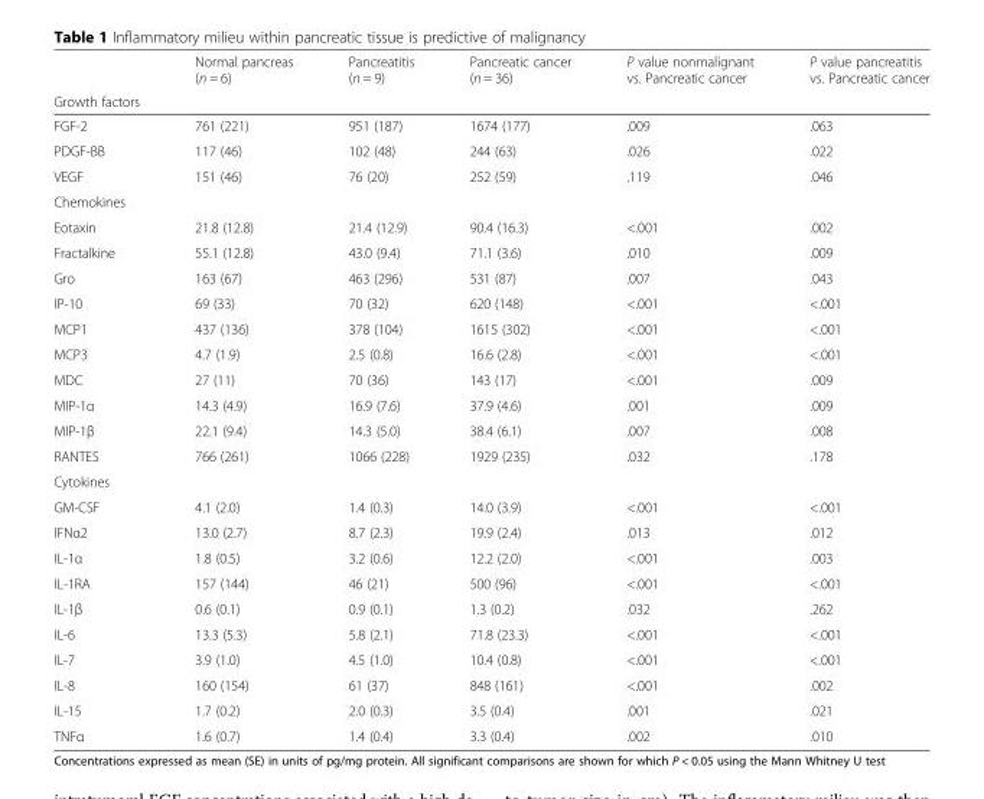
<table><thead><tr><td rowspan="2">Growth factors</td><td rowspan="2">Normal pancreas (n = 6)</td><td rowspan="2">Pancreatitis (n = 9)</td><td rowspan="2">Pancreatic cancer (n = 36)</td><td rowspan="2">P value nonmalignant vs. Pancreatic cancer</td><td rowspan="2">P value pancreatitis vs. Pancreatic cancer</td></tr><tr></tr></thead><tbody><tr><td>FGF-2</td><td>761 (221)</td><td>951 (187)</td><td>1674 (177)</td><td>.009</td><td>.063</td></tr><tr><td>PDGF-BB</td><td>117 (46)</td><td>102 (48)</td><td>244 (63)</td><td>.026</td><td>.022</td></tr><tr><td>VEGF</td><td>151 (46)</td><td>76 (20)</td><td>252 (59)</td><td>.119</td><td>.046</td></tr><tr><td colspan="6">Chemokines</td></tr><tr><td>Eotaxin</td><td>21.8 (12.8)</td><td>21.4 (12.9)</td><td>90.4 (16.3)</td><td>&lt;.001</td><td>.002</td></tr><tr><td>Fractalkine</td><td>55.1 (12.8)</td><td>43.0 (9.4)</td><td>71.1 (3.6)</td><td>.010</td><td>.009</td></tr><tr><td>Gro</td><td>163 (67)</td><td>463 (296)</td><td>531 (87)</td><td>.007</td><td>.043</td></tr><tr><td>IP-10</td><td>69 (33)</td><td>70 (32)</td><td>620 (148)</td><td>&lt;.001</td><td>&lt;.001</td></tr><tr><td>MCP1</td><td>437 (136)</td><td>378 (104)</td><td>1615 (302)</td><td>&lt;.001</td><td>&lt;.001</td></tr><tr><td>MCP3</td><td>4.7 (1.9)</td><td>2.5 (0.8)</td><td>16.6 (2.8)</td><td>&lt;.001</td><td>&lt;.001</td></tr><tr><td>MDC</td><td>27 (11)</td><td>70 (36)</td><td>143 (17)</td><td>&lt;.001</td><td>.009</td></tr><tr><td>MIP-1α</td><td>14.3 (4.9)</td><td>16.9 (7.6)</td><td>37.9 (4.6)</td><td>.001</td><td>.009</td></tr><tr><td>MIP-1β</td><td>22.1 (9.4)</td><td>14.3 (5.0)</td><td>38.4 (6.1)</td><td>.007</td><td>.008</td></tr><tr><td>RANTES</td><td>766 (261)</td><td>1066 (228)</td><td>1929 (235)</td><td>.032</td><td>.178</td></tr><tr><td colspan="6">Cytokines</td></tr><tr><td>GM-CSF</td><td>4.1 (2.0)</td><td>1.4 (0.3)</td><td>14.0 (3.9)</td><td>&lt;.001</td><td>&lt;.001</td></tr><tr><td>IFNα2</td><td>13.0 (2.7)</td><td>8.7 (2.3)</td><td>19.9 (2.4)</td><td>.013</td><td>.012</td></tr><tr><td>IL-1α</td><td>1.8 (0.5)</td><td>3.2 (0.6)</td><td>12.2 (2.0)</td><td>&lt;.001</td><td>.003</td></tr><tr><td>IL-1RA</td><td>157 (144)</td><td>46 (21)</td><td>500 (96)</td><td>&lt;.001</td><td>&lt;.001</td></tr><tr><td>IL-1β</td><td>0.6 (0.1)</td><td>0.9 (0.1)</td><td>1.3 (0.2)</td><td>.032</td><td>.262</td></tr><tr><td>IL-6</td><td>13.3 (5.3)</td><td>5.8 (2.1)</td><td>71.8 (23.3)</td><td>&lt;.001</td><td>&lt;.001</td></tr><tr><td>IL-7</td><td>3.9 (1.0)</td><td>4.5 (1.0)</td><td>10.4 (0.8)</td><td>&lt;.001</td><td>&lt;.001</td></tr><tr><td>IL-8</td><td>160 (154)</td><td>61 (37)</td><td>848 (161)</td><td>&lt;.001</td><td>.002</td></tr><tr><td>IL-15</td><td>1.7 (0.2)</td><td>2.0 (0.3)</td><td>3.5 (0.4)</td><td>.001</td><td>.021</td></tr><tr><td>TNFα</td><td>1.6 (0.7)</td><td>1.4 (0.4)</td><td>3.3 (0.4)</td><td>.002</td><td>.010</td></tr></tbody></table>